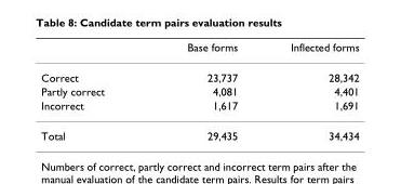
<table><thead><tr><td></td><td>Base forms</td><td>Inflected forms</td></tr></thead><tbody><tr><td>Correct</td><td>23,737</td><td>28,342</td></tr><tr><td>Partly correct</td><td>4,081</td><td>4,401</td></tr><tr><td>Incorrect</td><td>1,617</td><td>1,691</td></tr><tr><td>Total</td><td>29,435</td><td>34,434</td></tr></tbody></table>